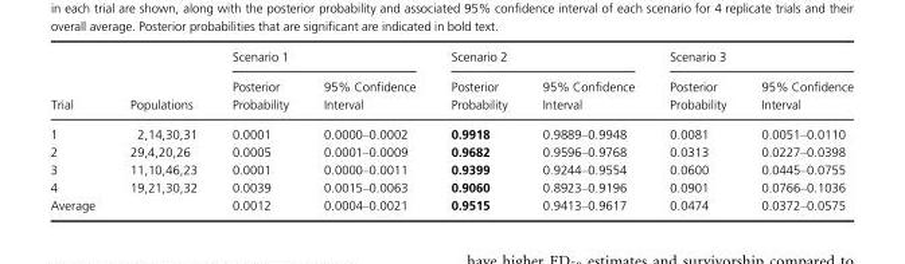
<table><thead><tr><td rowspan="2">Trial</td><td rowspan="2">Populations</td><td colspan="2">Scenario 1</td><td colspan="2">Scenario 2</td><td colspan="2">Scenario 3</td></tr><tr><td>Posterior Probability</td><td>95% Confidence Interval</td><td>Posterior Probability</td><td>95% Confidence Interval</td><td>Posterior Probability</td><td>95% Confidence Interval</td></tr></thead><tbody><tr><td>1</td><td>2,14,30,31</td><td>0.0001</td><td>0.0000–0.0002</td><td>0.9918</td><td>0.9889–0.9948</td><td>0.0081</td><td>0.0051–0.0110</td></tr><tr><td>2</td><td>29,4,20,26</td><td>0.0005</td><td>0.0001–0.0009</td><td>0.9682</td><td>0.9596–0.9768</td><td>0.0313</td><td>0.0227–0.0398</td></tr><tr><td>3</td><td>11,10,46,23</td><td>0.0001</td><td>0.0000–0.0011</td><td>0.9399</td><td>0.9244–0.9554</td><td>0.0600</td><td>0.0445–0.0755</td></tr><tr><td>4</td><td>19,21,30,32</td><td>0.0039</td><td>0.0015–0.0063</td><td>0.9060</td><td>0.8923–0.9196</td><td>0.0901</td><td>0.0766–0.1036</td></tr><tr><td>Average</td><td></td><td>0.0012</td><td>0.0004–0.0021</td><td>0.9515</td><td>0.9413–0.9617</td><td>0.0474</td><td>0.0372–0.0575</td></tr></tbody></table>